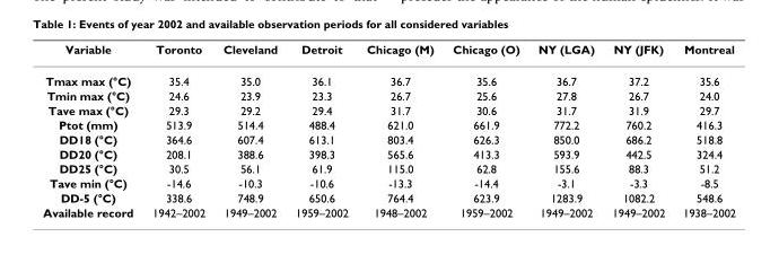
<table><thead><tr><td>Variable</td><td>Toronto</td><td>Cleveland</td><td>Detroit</td><td>Chicago (M)</td><td>Chicago (O)</td><td>NY (LGA)</td><td>NY (JFK)</td><td>Montreal</td></tr></thead><tbody><tr><td>Tmax max (°C)</td><td>35.4</td><td>35.0</td><td>36.1</td><td>36.7</td><td>35.6</td><td>36.7</td><td>37.2</td><td>35.6</td></tr><tr><td>Tmin max (°C)</td><td>24.6</td><td>23.9</td><td>23.3</td><td>26.7</td><td>25.6</td><td>27.8</td><td>26.7</td><td>24.0</td></tr><tr><td>Tave max (°C)</td><td>29.3</td><td>29.2</td><td>29.4</td><td>31.7</td><td>30.6</td><td>31.7</td><td>31.9</td><td>29.7</td></tr><tr><td>Ptot (mm)</td><td>513.9</td><td>514.4</td><td>488.4</td><td>621.0</td><td>661.9</td><td>772.2</td><td>760.2</td><td>416.3</td></tr><tr><td>DD18 (°C)</td><td>364.6</td><td>607.4</td><td>613.1</td><td>803.4</td><td>626.3</td><td>850.0</td><td>686.2</td><td>518.8</td></tr><tr><td>DD20 (°C)</td><td>208.1</td><td>388.6</td><td>398.3</td><td>565.6</td><td>413.3</td><td>593.9</td><td>442.5</td><td>324.4</td></tr><tr><td>DD25 (°C)</td><td>30.5</td><td>56.1</td><td>61.9</td><td>115.0</td><td>62.8</td><td>155.6</td><td>88.3</td><td>51.2</td></tr><tr><td>Tave min (°C)</td><td>-14.6</td><td>-10.3</td><td>-10.6</td><td>-13.3</td><td>-14.4</td><td>-3.1</td><td>-3.3</td><td>-8.5</td></tr><tr><td>DD-5 (°C)</td><td>338.6</td><td>748.9</td><td>650.6</td><td>764.4</td><td>623.9</td><td>1283.9</td><td>1082.2</td><td>548.6</td></tr><tr><td>Available record</td><td>1942–2002</td><td>1949–2002</td><td>1959–2002</td><td>1948–2002</td><td>1959–2002</td><td>1949–2002</td><td>1949–2002</td><td>1938–2002</td></tr></tbody></table>